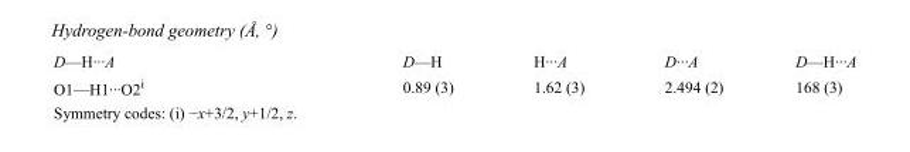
<table><tbody><tr><td>D—H···A</td><td>D—H</td><td>H···A</td><td>D···A</td><td>D—H···A</td></tr><tr><td>O1—H1···O2<sup>i</sup></td><td>0.89 (3)</td><td>1.62 (3)</td><td>2.494 (2)</td><td>168 (3)</td></tr></tbody></table>